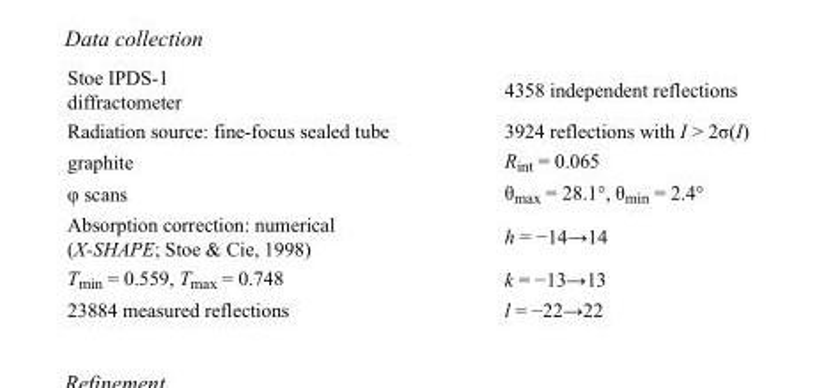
<table><tbody><tr><td>Stoe IPDS-1 diffractometer</td><td>4358 independent reflections</td></tr><tr><td>Radiation source: fine-focus sealed tube</td><td>3924 reflections with I &gt; 2σ(I)</td></tr><tr><td>graphite</td><td>R<sub>int</sub> = 0.065</td></tr><tr><td>φ scans</td><td>θ<sub>max</sub> = 28.1°, θ<sub>min</sub> = 2.4°</td></tr><tr><td>Absorption correction: numerical (X-SHAPE; Stoe &amp; Cie, 1998)</td><td>h = −14→14</td></tr><tr><td>T<sub>min</sub> = 0.559, T<sub>max</sub> = 0.748</td><td>k = −13→13</td></tr><tr><td>23884 measured reflections</td><td>l = −22→22</td></tr></tbody></table>